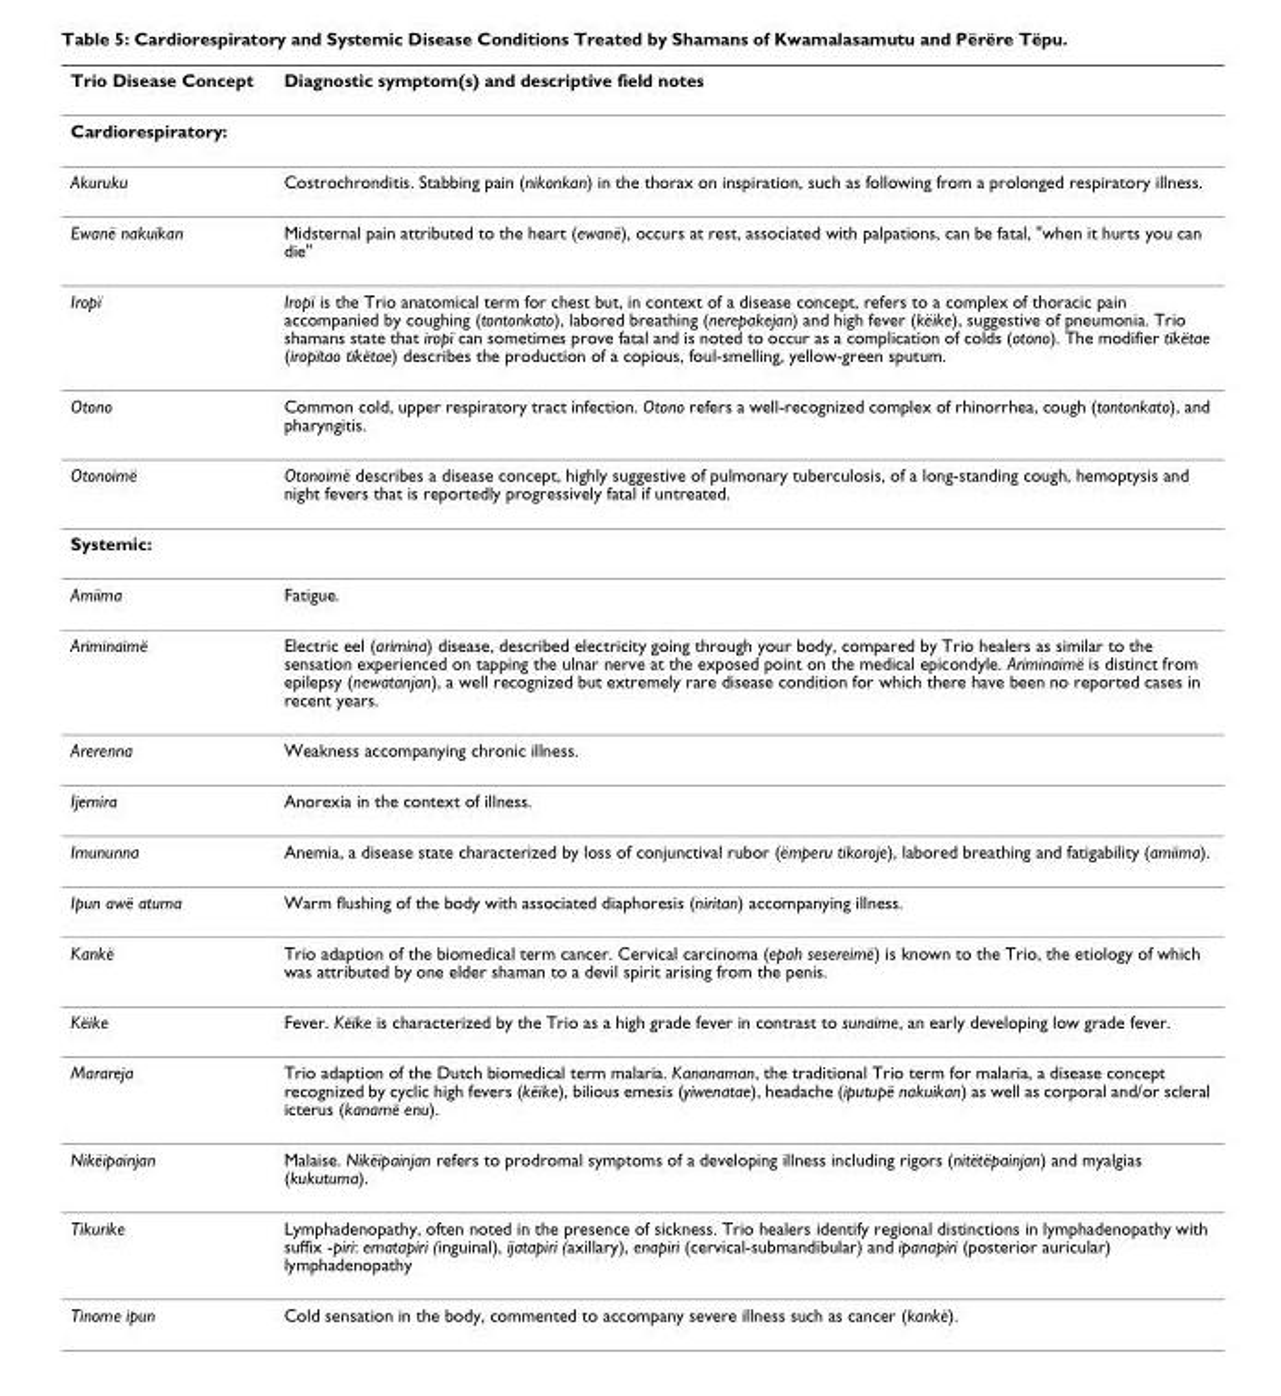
<table><thead><tr><td>Trio Disease Concept</td><td>Diagnostic symptom(s) and descriptive field notes</td></tr></thead><tbody><tr><td colspan="2">Cardiorespiratory:</td></tr><tr><td>Akuruku</td><td>Costrochronditis. Stabbing pain (nikonkan) in the thorax on inspiration, such as following from a prolonged respiratory illness.</td></tr><tr><td>Ewanë nakuikan</td><td>Midsternal pain attributed to the heart (ewanë), occurs at rest, associated with palpations, can be fatal, &quot;when it hurts you can die&quot;</td></tr><tr><td>Iropï</td><td>Iropï is the Trio anatomical term for chest but, in context of a disease concept, refers to a complex of thoracic pain accompanied by coughing (tontonkato), labored breathing (nerepakejan) and high fever (këike), suggestive of pneumonia. Trio shamans state that iropï can sometimes prove fatal and is noted to occur as a complication of colds (otono). The modifier tïkëtae (iropïtao tïkëtae) describes the production of a copious, foul-smelling, yellow-green sputum.</td></tr><tr><td>Otono</td><td>Common cold, upper respiratory tract infection. Otono refers a well-recognized complex of rhinorrhea, cough (tontonkato), and pharyngitis.</td></tr><tr><td>Otonoimë</td><td>Otonoimë describes a disease concept, highly suggestive of pulmonary tuberculosis, of a long-standing cough, hemoptysis and night fevers that is reportedly progressively fatal if untreated.</td></tr><tr><td colspan="2">Systemic:</td></tr><tr><td>Amiima</td><td>Fatigue.</td></tr><tr><td>Ariminaimë</td><td>Electric eel (arimina) disease, described electricity going through your body, compared by Trio healers as similar to the sensation experienced on tapping the ulnar nerve at the exposed point on the medical epicondyle. Ariminaimë is distinct from epilepsy (newatanjan), a well recognized but extremely rare disease condition for which there have been no reported cases in recent years.</td></tr><tr><td>Arerenna</td><td>Weakness accompanying chronic illness.</td></tr><tr><td>Ijemira</td><td>Anorexia in the context of illness.</td></tr><tr><td>Imununna</td><td>Anemia, a disease state characterized by loss of conjunctival rubor (ëmperu tikoroje), labored breathing and fatigability (amiima).</td></tr><tr><td>Ipun awë atuma</td><td>Warm flushing of the body with associated diaphoresis (niritan) accompanying illness.</td></tr><tr><td>Kankë</td><td>Trio adaption of the biomedical term cancer. Cervical carcinoma (epah sesereimë) is known to the Trio, the etiology of which was attributed by one elder shaman to a devil spirit arising from the penis.</td></tr><tr><td>Këike</td><td>Fever. Këike is characterized by the Trio as a high grade fever in contrast to sunaime, an early developing low grade fever.</td></tr><tr><td>Marareja</td><td>Trio adaption of the Dutch biomedical term malaria. Kananaman, the traditional Trio term for malaria, a disease concept recognized by cyclic high fevers (këike), bilious emesis (yiwenatae), headache (iputupë nakuikan) as well as corporal and/or scleral icterus (kanamë enu).</td></tr><tr><td>Nikëipainjan</td><td>Malaise. Nikëipainjan refers to prodromal symptoms of a developing illness including rigors (nitëtëpainjan) and myalgias (kukutuma).</td></tr><tr><td>Tikurike</td><td>Lymphadenopathy, often noted in the presence of sickness. Trio healers identify regional distinctions in lymphadenopathy with suffix -piri: ematapiri (inguinal), ijatapiri (axillary), enapiri (cervical-submandibular) and ipanapiri (posterior auricular) lymphadenopathy</td></tr><tr><td>Tinome ipun</td><td>Cold sensation in the body, commented to accompany severe illness such as cancer (kankë).</td></tr></tbody></table>